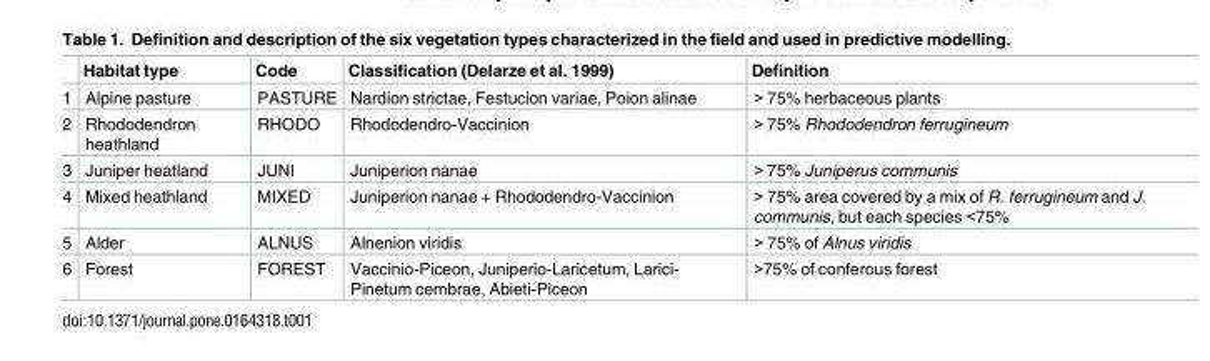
<table><thead><tr><td></td><td>Habitat type</td><td>Code</td><td>Classification (Delarze et al. 1999)</td><td>Definition</td></tr></thead><tbody><tr><td>1</td><td>Alpine pasture</td><td>PASTURE</td><td>Nardion strictae, Festucion variae, Poion alinae</td><td>&gt; 75% herbaceous plants</td></tr><tr><td>2</td><td>Rhododendron heathland</td><td>RHODO</td><td>Rhododendro-Vaccinion</td><td>&gt; 75% Rhododendron ferrugineum</td></tr><tr><td>3</td><td>Juniper heatland</td><td>JUNI</td><td>Juniperion nanae</td><td>&gt; 75% Juniperus communis</td></tr><tr><td>4</td><td>Mixed heathland</td><td>MIXED</td><td>Juniperion nanae + Rhododendro-Vaccinion</td><td>&gt; 75% area covered by a mix of R. ferrugineum and J. communis, but each species &lt;75%</td></tr><tr><td>5</td><td>Alder</td><td>ALNUS</td><td>Alnenion viridis</td><td>&gt; 75% of Alnus viridis</td></tr><tr><td>6</td><td>Forest</td><td>FOREST</td><td>Vaccinio-Piceon, Juniperio-Laricetum, Larici- Pinetum cembrae, Abieti-Piceon</td><td>&gt;75% of conferous forest</td></tr></tbody></table>